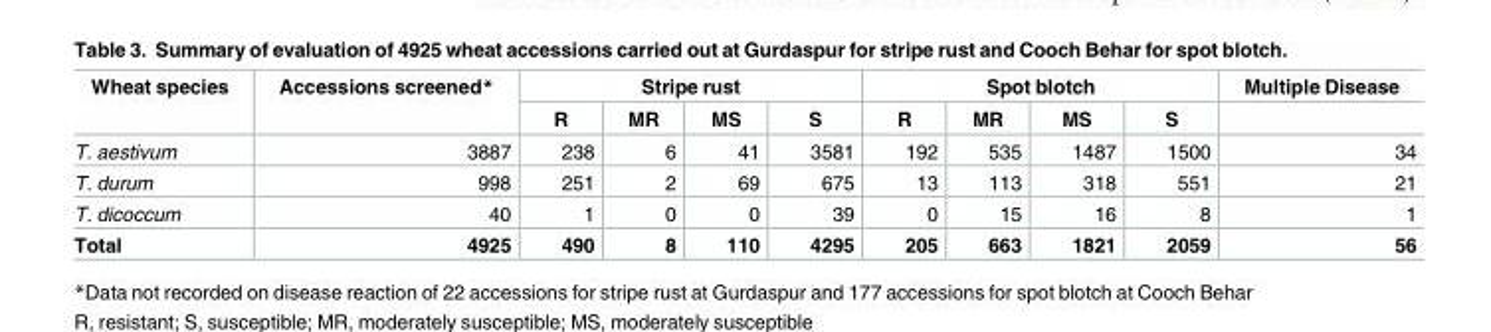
<table><thead><tr><td rowspan="2">Wheat species</td><td rowspan="2">Accessions screened*</td><td colspan="4">Stripe rust</td><td colspan="4">Spot blotch</td><td rowspan="2">Multiple Disease</td></tr><tr><td>R</td><td>MR</td><td>MS</td><td>S</td><td>R</td><td>MR</td><td>MS</td><td>S</td></tr></thead><tbody><tr><td>T. aestivum</td><td>3887</td><td>238</td><td>6</td><td>41</td><td>3581</td><td>192</td><td>535</td><td>1487</td><td>1500</td><td>34</td></tr><tr><td>T. durum</td><td>998</td><td>251</td><td>2</td><td>69</td><td>675</td><td>13</td><td>113</td><td>318</td><td>551</td><td>21</td></tr><tr><td>T. dicoccum</td><td>40</td><td>1</td><td>0</td><td>0</td><td>39</td><td>0</td><td>15</td><td>16</td><td>8</td><td>1</td></tr><tr><td>Total</td><td>4925</td><td>490</td><td>8</td><td>110</td><td>4295</td><td>205</td><td>663</td><td>1821</td><td>2059</td><td>56</td></tr></tbody></table>